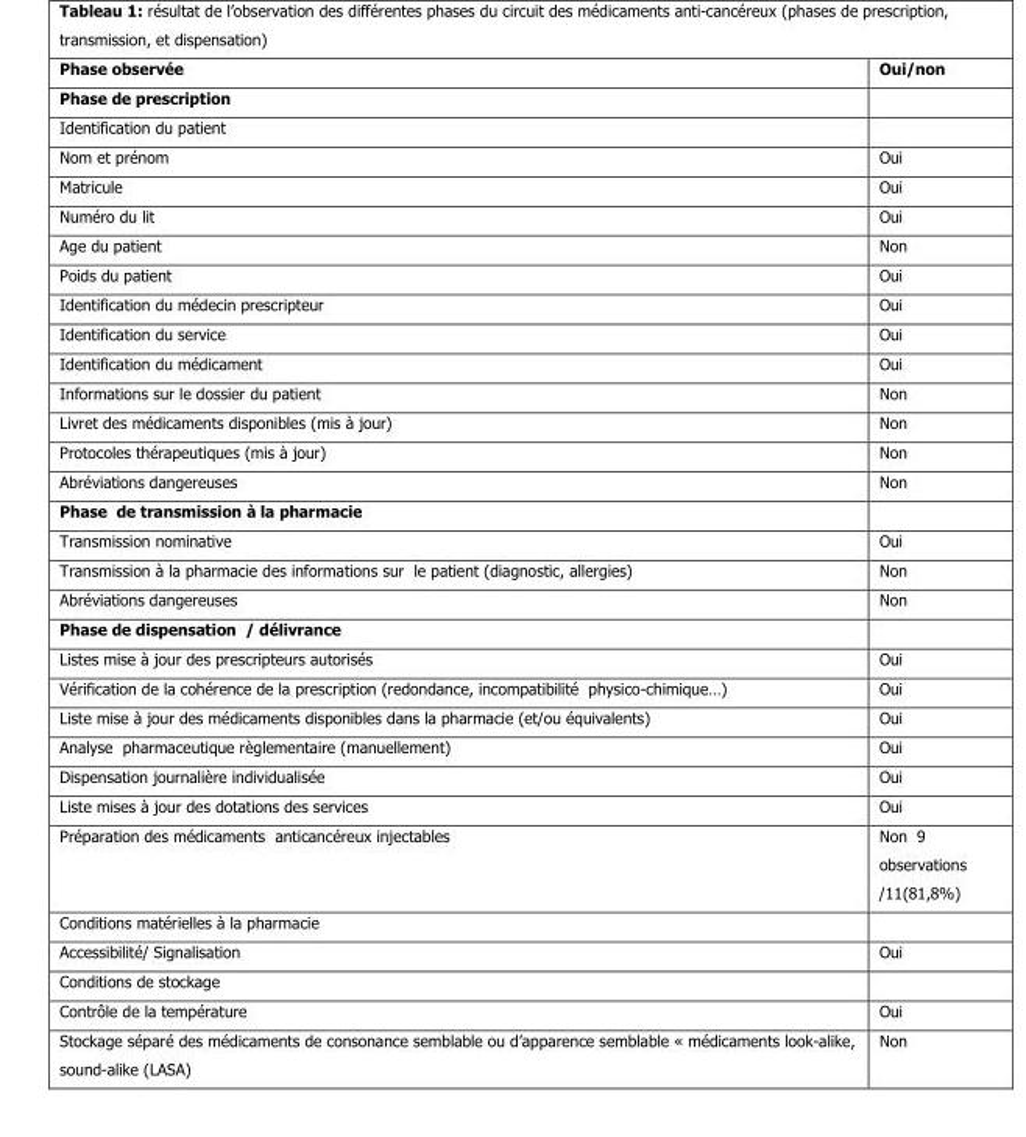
<table><thead><tr><td>Phase observée</td><td>Oui/non</td></tr></thead><tbody><tr><td colspan="2">Phase de prescription</td></tr><tr><td colspan="2">Identification du patient</td></tr><tr><td>Nom et prénom</td><td>Oui</td></tr><tr><td>Matricule</td><td>Oui</td></tr><tr><td>Numéro du lit</td><td>Oui</td></tr><tr><td>Age du patient</td><td>Non</td></tr><tr><td>Poids du patient</td><td>Oui</td></tr><tr><td>Identification du médecin prescripteur</td><td>Oui</td></tr><tr><td>Identification du service</td><td>Oui</td></tr><tr><td>Identification du médicament</td><td>Oui</td></tr><tr><td>Informations sur le dossier du patient</td><td>Non</td></tr><tr><td>Livret des médicaments disponibles (mis à jour)</td><td>Non</td></tr><tr><td>Protocoles thérapeutiques (mis à jour)</td><td>Non</td></tr><tr><td>Abréviations dangereuses</td><td>Non</td></tr><tr><td colspan="2">Phase de transmission à la pharmacie</td></tr><tr><td>Transmission nominative</td><td>Oui</td></tr><tr><td>Transmission à la pharmacie des informations sur le patient (diagnostic, allergies)</td><td>Non</td></tr><tr><td>Abréviations dangereuses</td><td>Non</td></tr><tr><td colspan="2">Phase de dispensation / délivrance</td></tr><tr><td>Listes mise à jour des prescripteurs autorisés</td><td>Oui</td></tr><tr><td>Vérification de la cohérence de la prescription (redondance, incompatibilité physico-chimique…)</td><td>Oui</td></tr><tr><td>Liste mise à jour des médicaments disponibles dans la pharmacie (et/ou équivalents)</td><td>Oui</td></tr><tr><td>Analyse pharmaceutique règlementaire (manuellement)</td><td>Oui</td></tr><tr><td>Dispensation journalière individualisée</td><td>Oui</td></tr><tr><td>Liste mises à jour des dotations des services</td><td>Oui</td></tr><tr><td>Préparation des médicaments anticancéreux injectables</td><td>Non 9 observations /11(81,8%)</td></tr><tr><td colspan="2">Conditions matérielles à la pharmacie</td></tr><tr><td>Accessibilité/ Signalisation</td><td>Oui</td></tr><tr><td colspan="2">Conditions de stockage</td></tr><tr><td>Contrôle de la température</td><td>Oui</td></tr><tr><td>Stockage séparé des médicaments de consonance semblable ou d’apparence semblable « médicaments look-alike, sound-alike (LASA)</td><td>Non</td></tr></tbody></table>